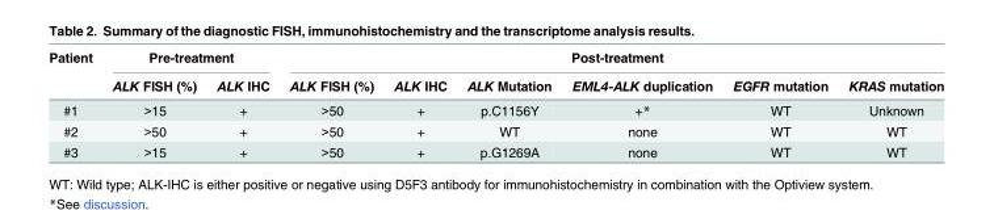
<table><thead><tr><td rowspan="2">Patient</td><td colspan="2">Pre-treatment</td><td colspan="6">Post-treatment</td></tr><tr><td>ALK FISH (%)</td><td>ALK IHC</td><td>ALK FISH (%)</td><td>ALK IHC</td><td>ALK Mutation</td><td>EML4-ALK duplication</td><td>EGFR mutation</td><td>KRAS mutation</td></tr></thead><tbody><tr><td>#1</td><td>&gt;15</td><td>+</td><td>&gt;50</td><td>+</td><td>p.C1156Y</td><td>+*</td><td>WT</td><td>Unknown</td></tr><tr><td>#2</td><td>&gt;50</td><td>+</td><td>&gt;50</td><td>+</td><td>WT</td><td>none</td><td>WT</td><td>WT</td></tr><tr><td>#3</td><td>&gt;15</td><td>+</td><td>&gt;50</td><td>+</td><td>p.G1269A</td><td>none</td><td>WT</td><td>WT</td></tr></tbody></table>